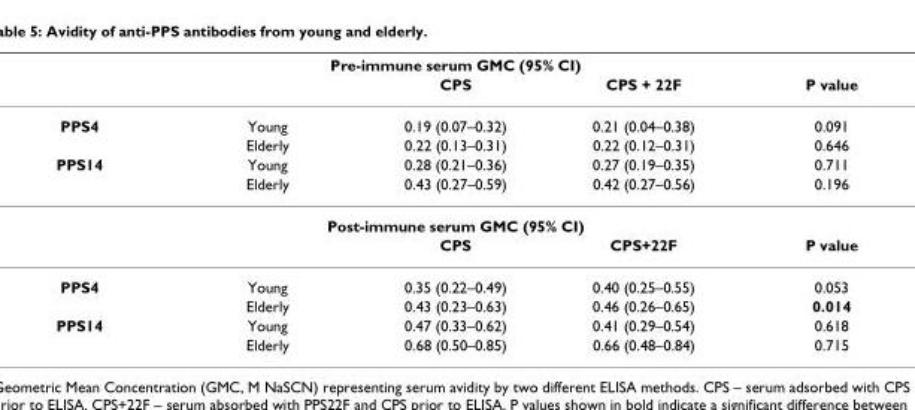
<table><thead><tr><td colspan="5">Pre-immune serum GMC (95% CI)</td></tr><tr><td></td><td></td><td>CPS</td><td>CPS + 22F</td><td>P value</td></tr></thead><tbody><tr><td rowspan="2">PPS4</td><td>Young</td><td>0.19 (0.07–0.32)</td><td>0.21 (0.04–0.38)</td><td>0.091</td></tr><tr><td>Elderly</td><td>0.22 (0.13–0.31)</td><td>0.22 (0.12–0.31)</td><td>0.646</td></tr><tr><td rowspan="2">PPS14</td><td>Young</td><td>0.28 (0.21–0.36)</td><td>0.27 (0.19–0.35)</td><td>0.711</td></tr><tr><td>Elderly</td><td>0.43 (0.27–0.59)</td><td>0.42 (0.27–0.56)</td><td>0.196</td></tr><tr><td colspan="5">Post-immune serum GMC (95% CI)</td></tr><tr><td></td><td></td><td>CPS</td><td>CPS+22F</td><td>P value</td></tr><tr><td rowspan="2">PPS4</td><td>Young</td><td>0.35 (0.22–0.49)</td><td>0.40 (0.25–0.55)</td><td>0.053</td></tr><tr><td>Elderly</td><td>0.43 (0.23–0.63)</td><td>0.46 (0.26–0.65)</td><td>0.014</td></tr><tr><td rowspan="2">PPS14</td><td>Young</td><td>0.47 (0.33–0.62)</td><td>0.41 (0.29–0.54)</td><td>0.618</td></tr><tr><td>Elderly</td><td>0.68 (0.50–0.85)</td><td>0.66 (0.48–0.84)</td><td>0.715</td></tr></tbody></table>